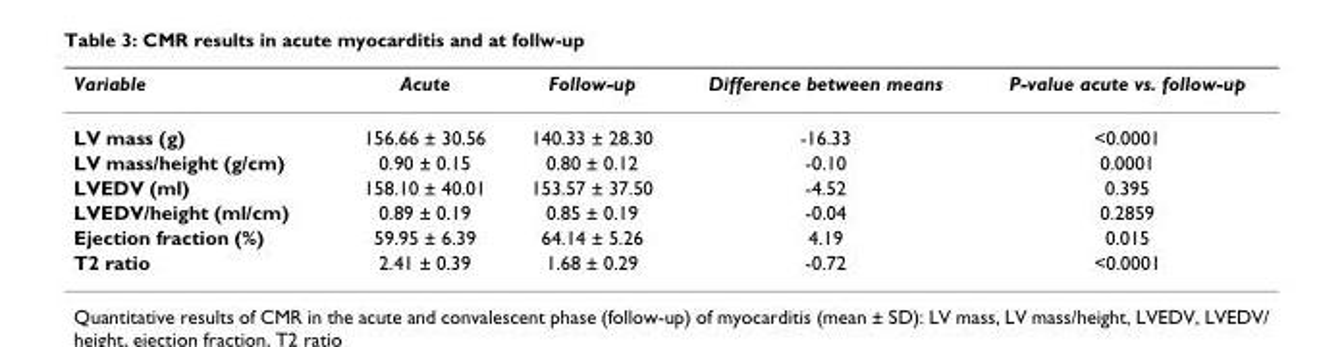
<table><thead><tr><td>Variable</td><td>Acute</td><td>Follow-up</td><td>Difference between means</td><td>P-value acute vs. follow-up</td></tr></thead><tbody><tr><td>LV mass (g)</td><td>156.66 ± 30.56</td><td>140.33 ± 28.30</td><td>-16.33</td><td>&lt;0.0001</td></tr><tr><td>LV mass/height (g/cm)</td><td>0.90 ± 0.15</td><td>0.80 ± 0.12</td><td>-0.10</td><td>0.0001</td></tr><tr><td>LVEDV (ml)</td><td>158.10 ± 40.01</td><td>153.57 ± 37.50</td><td>-4.52</td><td>0.395</td></tr><tr><td>LVEDV/height (ml/cm)</td><td>0.89 ± 0.19</td><td>0.85 ± 0.19</td><td>-0.04</td><td>0.2859</td></tr><tr><td>Ejection fraction (%)</td><td>59.95 ± 6.39</td><td>64.14 ± 5.26</td><td>4.19</td><td>0.015</td></tr><tr><td>T2 ratio</td><td>2.41 ± 0.39</td><td>1.68 ± 0.29</td><td>-0.72</td><td>&lt;0.0001</td></tr></tbody></table>